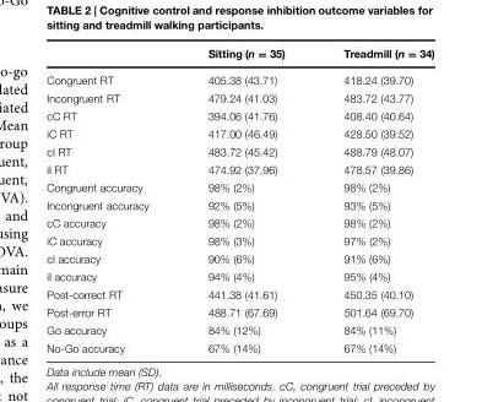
<table><thead><tr><td></td><td>Sitting (n = 35)</td><td>Treadmill (n = 34)</td></tr></thead><tbody><tr><td>Congruent RT</td><td>405.38 (43.71)</td><td>418.24 (39.70)</td></tr><tr><td>Incongruent RT</td><td>479.24 (41.03)</td><td>483.72 (43.77)</td></tr><tr><td>cC RT</td><td>394.06 (41.76)</td><td>408.40 (40.64)</td></tr><tr><td>iC RT</td><td>417.00 (46.49)</td><td>428.50 (39.52)</td></tr><tr><td>cI RT</td><td>483.72 (45.42)</td><td>488.79 (48.07)</td></tr><tr><td>iI RT</td><td>474.92 (37.96)</td><td>478.57 (39.86)</td></tr><tr><td>Congruent accuracy</td><td>98% (2%)</td><td>98% (2%)</td></tr><tr><td>Incongruent accuracy</td><td>92% (5%)</td><td>93% (5%)</td></tr><tr><td>cC accuracy</td><td>98% (2%)</td><td>98% (2%)</td></tr><tr><td>iC accuracy</td><td>98% (3%)</td><td>97% (2%)</td></tr><tr><td>cI accuracy</td><td>90% (6%)</td><td>91% (6%)</td></tr><tr><td>iI accuracy</td><td>94% (4%)</td><td>95% (4%)</td></tr><tr><td>Post-correct RT</td><td>441.38 (41.61)</td><td>450.35 (40.10)</td></tr><tr><td>Post-error RT</td><td>488.71 (67.69)</td><td>501.64 (69.70)</td></tr><tr><td>Go accuracy</td><td>84% (12%)</td><td>84% (11%)</td></tr><tr><td>No-Go accuracy</td><td>67% (14%)</td><td>67% (14%)</td></tr></tbody></table>